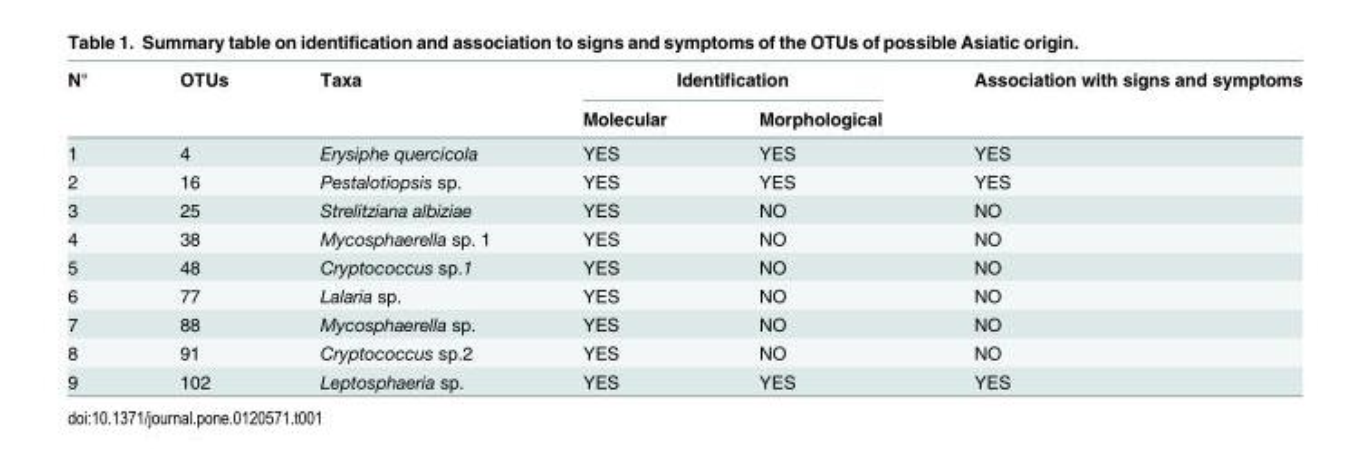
<table><thead><tr><td rowspan="2">N°</td><td rowspan="2">OTUs</td><td rowspan="2">Taxa</td><td colspan="2">Identification</td><td rowspan="2">Association with signs and symptoms</td></tr><tr><td>Molecular</td><td>Morphological</td></tr></thead><tbody><tr><td>1</td><td>4</td><td>Erysiphe quercicola</td><td>YES</td><td>YES</td><td>YES</td></tr><tr><td>2</td><td>16</td><td>Pestalotiopsis sp.</td><td>YES</td><td>YES</td><td>YES</td></tr><tr><td>3</td><td>25</td><td>Strelitziana albiziae</td><td>YES</td><td>NO</td><td>NO</td></tr><tr><td>4</td><td>38</td><td>Mycosphaerella sp. 1</td><td>YES</td><td>NO</td><td>NO</td></tr><tr><td>5</td><td>48</td><td>Cryptococcus sp.1</td><td>YES</td><td>NO</td><td>NO</td></tr><tr><td>6</td><td>77</td><td>Lalaria sp.</td><td>YES</td><td>NO</td><td>NO</td></tr><tr><td>7</td><td>88</td><td>Mycosphaerella sp.</td><td>YES</td><td>NO</td><td>NO</td></tr><tr><td>8</td><td>91</td><td>Cryptococcus sp.2</td><td>YES</td><td>NO</td><td>NO</td></tr><tr><td>9</td><td>102</td><td>Leptosphaeria sp.</td><td>YES</td><td>YES</td><td>YES</td></tr></tbody></table>